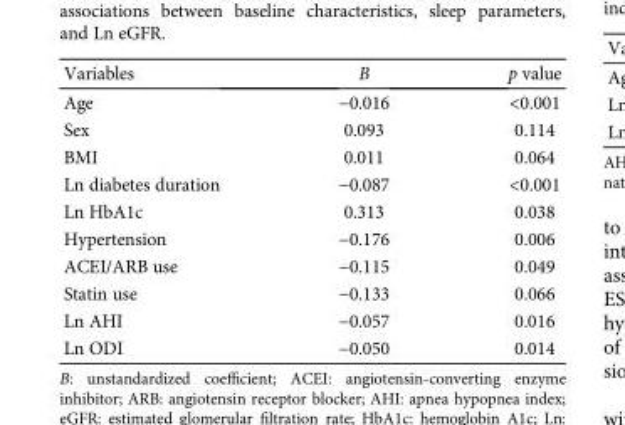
<table><thead><tr><td>Variables</td><td>B</td><td>p value</td></tr></thead><tbody><tr><td>Age</td><td>−0.016</td><td>&lt;0.001</td></tr><tr><td>Sex</td><td>0.093</td><td>0.114</td></tr><tr><td>BMI</td><td>0.011</td><td>0.064</td></tr><tr><td>Ln diabetes duration</td><td>−0.087</td><td>&lt;0.001</td></tr><tr><td>Ln HbA1c</td><td>0.313</td><td>0.038</td></tr><tr><td>Hypertension</td><td>−0.176</td><td>0.006</td></tr><tr><td>ACEI/ARB use</td><td>−0.115</td><td>0.049</td></tr><tr><td>Statin use</td><td>−0.133</td><td>0.066</td></tr><tr><td>Ln AHI</td><td>−0.057</td><td>0.016</td></tr><tr><td>Ln ODI</td><td>−0.050</td><td>0.014</td></tr></tbody></table>